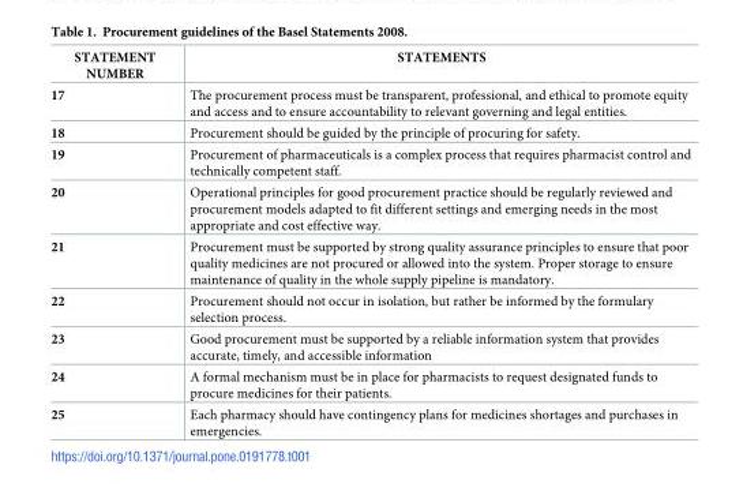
<table><thead><tr><td>STATEMENT NUMBER</td><td>STATEMENTS</td></tr></thead><tbody><tr><td>17</td><td>The procurement process must be transparent, professional, and ethical to promote equity and access and to ensure accountability to relevant governing and legal entities.</td></tr><tr><td>18</td><td>Procurement should be guided by the principle of procuring for safety.</td></tr><tr><td>19</td><td>Procurement of pharmaceuticals is a complex process that requires pharmacist control and technically competent staff.</td></tr><tr><td>20</td><td>Operational principles for good procurement practice should be regularly reviewed and procurement models adapted to fit different settings and emerging needs in the most appropriate and cost effective way.</td></tr><tr><td>21</td><td>Procurement must be supported by strong quality assurance principles to ensure that poor quality medicines are not procured or allowed into the system. Proper storage to ensure maintenance of quality in the whole supply pipeline is mandatory.</td></tr><tr><td>22</td><td>Procurement should not occur in isolation, but rather be informed by the formulary selection process.</td></tr><tr><td>23</td><td>Good procurement must be supported by a reliable information system that provides accurate, timely, and accessible information</td></tr><tr><td>24</td><td>A formal mechanism must be in place for pharmacists to request designated funds to procure medicines for their patients.</td></tr><tr><td>25</td><td>Each pharmacy should have contingency plans for medicines shortages and purchases in emergencies.</td></tr></tbody></table>